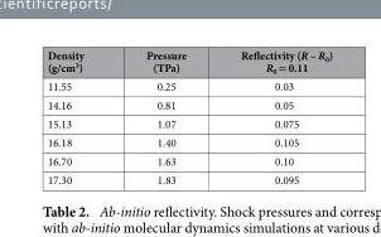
<table><thead><tr><td>Density (g/cm<sup>3</sup>)</td><td>Pressure (TPa)</td><td>Reflectivity (R – R<sub>0</sub>) R<sub>0</sub> = 0.11</td></tr></thead><tbody><tr><td>11.55</td><td>0.25</td><td>0.03</td></tr><tr><td>14.16</td><td>0.81</td><td>0.05</td></tr><tr><td>15.13</td><td>1.07</td><td>0.075</td></tr><tr><td>16.18</td><td>1.40</td><td>0.105</td></tr><tr><td>16.70</td><td>1.63</td><td>0.10</td></tr><tr><td>17.30</td><td>1.83</td><td>0.095</td></tr></tbody></table>